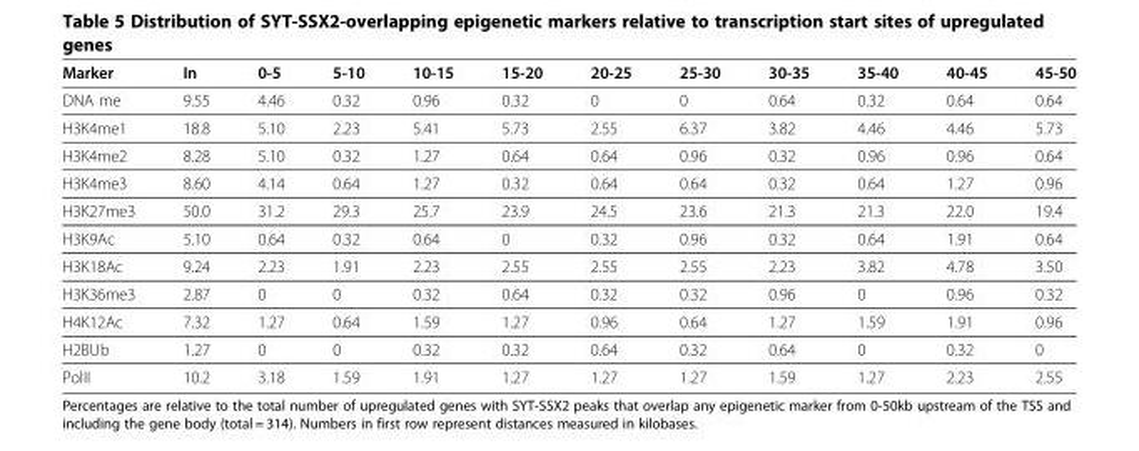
<table><thead><tr><td>Marker</td><td>In</td><td>0-5</td><td>5-10</td><td>10-15</td><td>15-20</td><td>20-25</td><td>25-30</td><td>30-35</td><td>35-40</td><td>40-45</td><td>45-50</td></tr></thead><tbody><tr><td>DNA me</td><td>9.55</td><td>4.46</td><td>0.32</td><td>0.96</td><td>0.32</td><td>0</td><td>0</td><td>0.64</td><td>0.32</td><td>0.64</td><td>0.64</td></tr><tr><td>H3K4me1</td><td>18.8</td><td>5.10</td><td>2.23</td><td>5.41</td><td>5.73</td><td>2.55</td><td>6.37</td><td>3.82</td><td>4.46</td><td>4.46</td><td>5.73</td></tr><tr><td>H3K4me2</td><td>8.28</td><td>5.10</td><td>0.32</td><td>1.27</td><td>0.64</td><td>0.64</td><td>0.96</td><td>0.32</td><td>0.96</td><td>0.96</td><td>0.64</td></tr><tr><td>H3K4me3</td><td>8.60</td><td>4.14</td><td>0.64</td><td>1.27</td><td>0.32</td><td>0.64</td><td>0.64</td><td>0.32</td><td>0.64</td><td>1.27</td><td>0.96</td></tr><tr><td>H3K27me3</td><td>50.0</td><td>31.2</td><td>29.3</td><td>25.7</td><td>23.9</td><td>24.5</td><td>23.6</td><td>21.3</td><td>21.3</td><td>22.0</td><td>19.4</td></tr><tr><td>H3K9Ac</td><td>5.10</td><td>0.64</td><td>0.32</td><td>0.64</td><td>0</td><td>0.32</td><td>0.96</td><td>0.32</td><td>0.64</td><td>1.91</td><td>0.64</td></tr><tr><td>H3K18Ac</td><td>9.24</td><td>2.23</td><td>1.91</td><td>2.23</td><td>2.55</td><td>2.55</td><td>2.55</td><td>2.23</td><td>3.82</td><td>4.78</td><td>3.50</td></tr><tr><td>H3K36me3</td><td>2.87</td><td>0</td><td>0</td><td>0.32</td><td>0.64</td><td>0.32</td><td>0.32</td><td>0.96</td><td>0</td><td>0.96</td><td>0.32</td></tr><tr><td>H4K12Ac</td><td>7.32</td><td>1.27</td><td>0.64</td><td>1.59</td><td>1.27</td><td>0.96</td><td>0.64</td><td>1.27</td><td>1.59</td><td>1.91</td><td>0.96</td></tr><tr><td>H2BUb</td><td>1.27</td><td>0</td><td>0</td><td>0.32</td><td>0.32</td><td>0.64</td><td>0.32</td><td>0.64</td><td>0</td><td>0.32</td><td>0</td></tr><tr><td>PolII</td><td>10.2</td><td>3.18</td><td>1.59</td><td>1.91</td><td>1.27</td><td>1.27</td><td>1.27</td><td>1.59</td><td>1.27</td><td>2.23</td><td>2.55</td></tr></tbody></table>